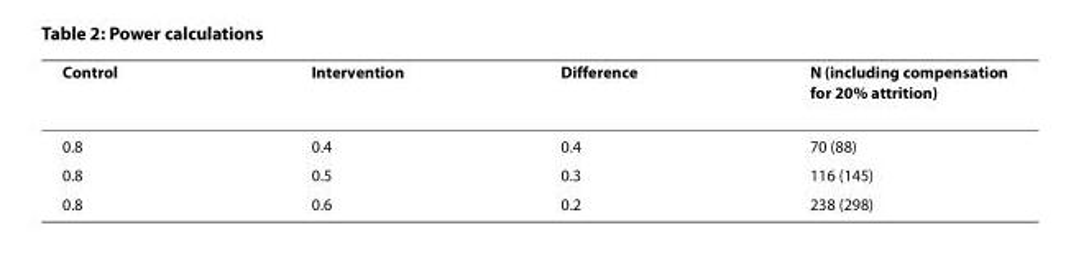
<table><thead><tr><td>Control</td><td>Intervention</td><td>Difference</td><td>N (including compensation for 20% attrition)</td></tr></thead><tbody><tr><td>0.8</td><td>0.4</td><td>0.4</td><td>70 (88)</td></tr><tr><td>0.8</td><td>0.5</td><td>0.3</td><td>116 (145)</td></tr><tr><td>0.8</td><td>0.6</td><td>0.2</td><td>238 (298)</td></tr></tbody></table>